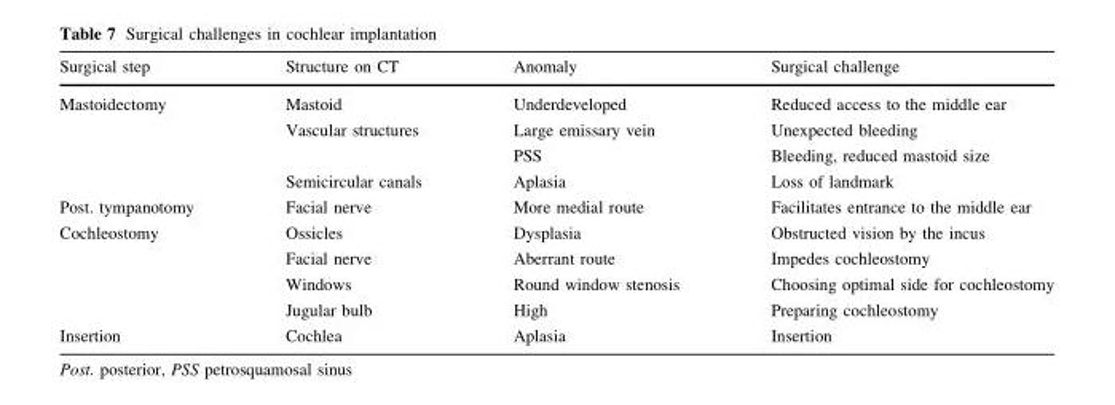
<table><thead><tr><td>Surgical step</td><td>Structure on CT</td><td>Anomaly</td><td>Surgical challenge</td></tr></thead><tbody><tr><td rowspan="4">Mastoidectomy</td><td>Mastoid</td><td>Underdeveloped</td><td>Reduced access to the middle ear</td></tr><tr><td>Vascular structures</td><td>Large emissary vein</td><td>Unexpected bleeding</td></tr><tr><td></td><td>PSS</td><td>Bleeding, reduced mastoid size</td></tr><tr><td>Semicircular canals</td><td>Aplasia</td><td>Loss of landmark</td></tr><tr><td>Post. tympanotomy</td><td>Facial nerve</td><td>More medial route</td><td>Facilitates entrance to the middle ear</td></tr><tr><td rowspan="4">Cochleostomy</td><td>Ossicles</td><td>Dysplasia</td><td>Obstructed vision by the incus</td></tr><tr><td>Facial nerve</td><td>Aberrant route</td><td>Impedes cochleostomy</td></tr><tr><td>Windows</td><td>Round window stenosis</td><td>Choosing optimal side for cochleostomy</td></tr><tr><td>Jugular bulb</td><td>High</td><td>Preparing cochleostomy</td></tr><tr><td>Insertion</td><td>Cochlea</td><td>Aplasia</td><td>Insertion</td></tr></tbody></table>